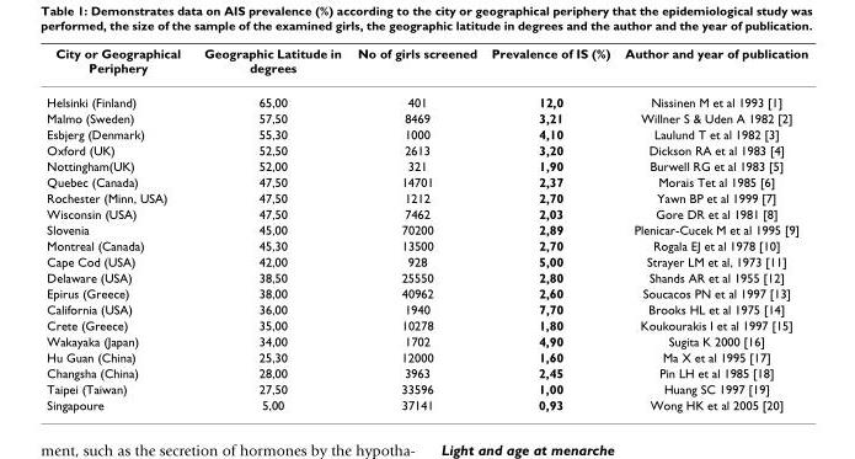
<table><thead><tr><td>City or Geographical Periphery</td><td>Geographic Latitude in degrees</td><td>No of girls screened</td><td>Prevalence of IS (%)</td><td>Author and year of publication</td></tr></thead><tbody><tr><td>Helsinki (Finland)</td><td>65,00</td><td>401</td><td>12,0</td><td>Nissinen M et al 1993 [1]</td></tr><tr><td>Malmo (Sweden)</td><td>57,50</td><td>8469</td><td>3,21</td><td>Willner S &amp; Uden A 1982 [2]</td></tr><tr><td>Esbjerg (Denmark)</td><td>55,30</td><td>1000</td><td>4,10</td><td>Laulund T et al 1982 [3]</td></tr><tr><td>Oxford (UK)</td><td>52,50</td><td>2613</td><td>3,20</td><td>Dickson RA et al 1983 [4]</td></tr><tr><td>Nottingham(UK)</td><td>52,00</td><td>321</td><td>1,90</td><td>Burwell RG et al 1983 [5]</td></tr><tr><td>Quebec (Canada)</td><td>47,50</td><td>14701</td><td>2,37</td><td>Morais Tet al 1985 [6]</td></tr><tr><td>Rochester (Minn, USA)</td><td>47,50</td><td>1212</td><td>2,70</td><td>Yawn BP et al 1999 [7]</td></tr><tr><td>Wisconsin (USA)</td><td>47,50</td><td>7462</td><td>2,03</td><td>Gore DR et al 1981 [8]</td></tr><tr><td>Slovenia</td><td>45,00</td><td>70200</td><td>2,89</td><td>Plenicar-Cucek M et al 1995 [9]</td></tr><tr><td>Montreal (Canada)</td><td>45,30</td><td>13500</td><td>2,70</td><td>Rogala EJ et al 1978 [10]</td></tr><tr><td>Cape Cod (USA)</td><td>42,00</td><td>928</td><td>5,00</td><td>Strayer LM et al, 1973 [11]</td></tr><tr><td>Delaware (USA)</td><td>38,50</td><td>25550</td><td>2,80</td><td>Shands AR et al 1955 [12]</td></tr><tr><td>Epirus (Greece)</td><td>38,00</td><td>40962</td><td>2,60</td><td>Soucacos PN et al 1997 [13]</td></tr><tr><td>California (USA)</td><td>36,00</td><td>1940</td><td>7,70</td><td>Brooks HL et al 1975 [14]</td></tr><tr><td>Crete (Greece)</td><td>35,00</td><td>10278</td><td>1,80</td><td>Koukourakis I et al 1997 [15]</td></tr><tr><td>Wakayaka (Japan)</td><td>34,00</td><td>1702</td><td>4,90</td><td>Sugita K 2000 [16]</td></tr><tr><td>Hu Guan (China)</td><td>25,30</td><td>12000</td><td>1,60</td><td>Ma X et al 1995 [17]</td></tr><tr><td>Changsha (China)</td><td>28,00</td><td>3963</td><td>2,45</td><td>Pin LH et al 1985 [18]</td></tr><tr><td>Taipei (Taiwan)</td><td>27,50</td><td>33596</td><td>1,00</td><td>Huang SC 1997 [19]</td></tr><tr><td>Singapoure</td><td>5,00</td><td>37141</td><td>0,93</td><td>Wong HK et al 2005 [20]</td></tr></tbody></table>